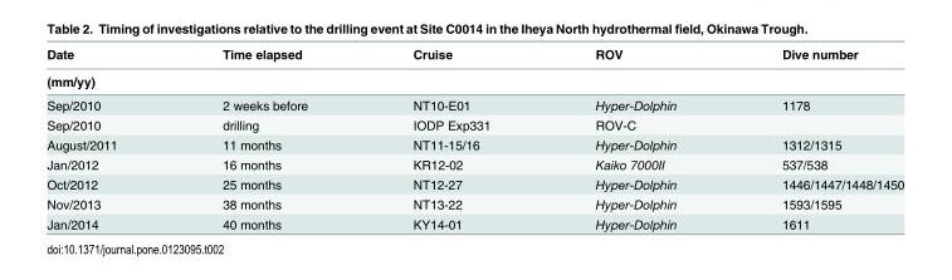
<table><thead><tr><td rowspan="2">Date (mm/yy)</td><td rowspan="2">Time elapsed</td><td rowspan="2">Cruise</td><td rowspan="2">ROV</td><td rowspan="2">Dive number</td></tr><tr></tr></thead><tbody><tr><td>Sep/2010</td><td>2 weeks before</td><td>NT10-E01</td><td>Hyper-Dolphin</td><td>1178</td></tr><tr><td>Sep/2010</td><td>drilling</td><td>IODP Exp331</td><td>ROV-C</td><td></td></tr><tr><td>August/2011</td><td>11 months</td><td>NT11-15/16</td><td>Hyper-Dolphin</td><td>1312/1315</td></tr><tr><td>Jan/2012</td><td>16 months</td><td>KR12-02</td><td>Kaiko 7000II</td><td>537/538</td></tr><tr><td>Oct/2012</td><td>25 months</td><td>NT12-27</td><td>Hyper-Dolphin</td><td>1446/1447/1448/1450</td></tr><tr><td>Nov/2013</td><td>38 months</td><td>NT13-22</td><td>Hyper-Dolphin</td><td>1593/1595</td></tr><tr><td>Jan/2014</td><td>40 months</td><td>KY14-01</td><td>Hyper-Dolphin</td><td>1611</td></tr></tbody></table>